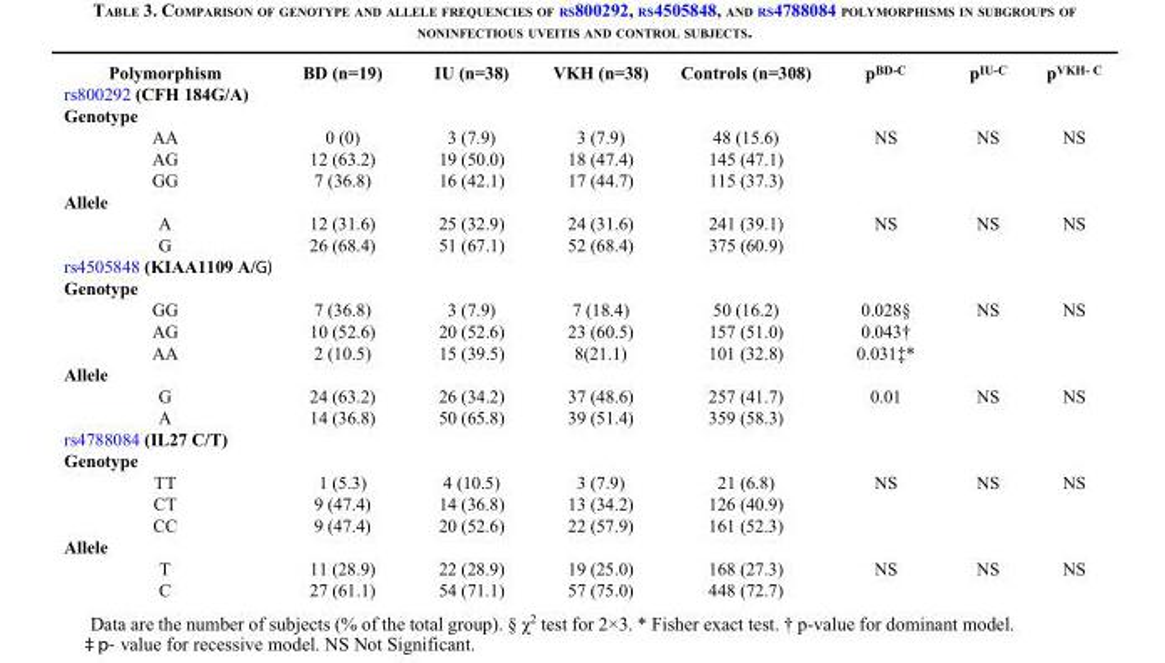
<table><thead><tr><td>Polymorphism</td><td>BD (n=19)</td><td>IU (n=38)</td><td>VKH (n=38)</td><td>Controls (n=308)</td><td>p<sup>BD-C</sup></td><td>p<sup>IU-C</sup></td><td>p<sup>VKH- C</sup></td></tr></thead><tbody><tr><td colspan="8">rs800292 (CFH 184G/A)</td></tr><tr><td colspan="8">Genotype</td></tr><tr><td>AA</td><td>0 (0)</td><td>3 (7.9)</td><td>3 (7.9)</td><td>48 (15.6)</td><td>NS</td><td>NS</td><td>NS</td></tr><tr><td>AG</td><td>12 (63.2)</td><td>19 (50.0)</td><td>18 (47.4)</td><td>145 (47.1)</td><td></td><td></td><td></td></tr><tr><td>GG</td><td>7 (36.8)</td><td>16 (42.1)</td><td>17 (44.7)</td><td>115 (37.3)</td><td></td><td></td><td></td></tr><tr><td colspan="8">Allele</td></tr><tr><td>A</td><td>12 (31.6)</td><td>25 (32.9)</td><td>24 (31.6)</td><td>241 (39.1)</td><td>NS</td><td>NS</td><td>NS</td></tr><tr><td>G</td><td>26 (68.4)</td><td>51 (67.1)</td><td>52 (68.4)</td><td>375 (60.9)</td><td></td><td></td><td></td></tr><tr><td colspan="8">rs4505848 (KIAA1109 A/G)</td></tr><tr><td colspan="8">Genotype</td></tr><tr><td>GG</td><td>7 (36.8)</td><td>3 (7.9)</td><td>7 (18.4)</td><td>50 (16.2)</td><td>0.028§</td><td>NS</td><td>NS</td></tr><tr><td>AG</td><td>10 (52.6)</td><td>20 (52.6)</td><td>23 (60.5)</td><td>157 (51.0)</td><td>0.043†</td><td></td><td></td></tr><tr><td>AA</td><td>2 (10.5)</td><td>15 (39.5)</td><td>8(21.1)</td><td>101 (32.8)</td><td>0.031‡*</td><td></td><td></td></tr><tr><td colspan="8">Allele</td></tr><tr><td>G</td><td>24 (63.2)</td><td>26 (34.2)</td><td>37 (48.6)</td><td>257 (41.7)</td><td>0.01</td><td>NS</td><td>NS</td></tr><tr><td>A</td><td>14 (36.8)</td><td>50 (65.8)</td><td>39 (51.4)</td><td>359 (58.3)</td><td></td><td></td><td></td></tr><tr><td colspan="8">rs4788084 (IL27 C/T)</td></tr><tr><td colspan="8">Genotype</td></tr><tr><td>TT</td><td>1 (5.3)</td><td>4 (10.5)</td><td>3 (7.9)</td><td>21 (6.8)</td><td>NS</td><td>NS</td><td>NS</td></tr><tr><td>CT</td><td>9 (47.4)</td><td>14 (36.8)</td><td>13 (34.2)</td><td>126 (40.9)</td><td></td><td></td><td></td></tr><tr><td>CC</td><td>9 (47.4)</td><td>20 (52.6)</td><td>22 (57.9)</td><td>161 (52.3)</td><td></td><td></td><td></td></tr><tr><td colspan="8">Allele</td></tr><tr><td>T</td><td>11 (28.9)</td><td>22 (28.9)</td><td>19 (25.0)</td><td>168 (27.3)</td><td>NS</td><td>NS</td><td>NS</td></tr><tr><td>C</td><td>27 (61.1)</td><td>54 (71.1)</td><td>57 (75.0)</td><td>448 (72.7)</td><td></td><td></td><td></td></tr></tbody></table>